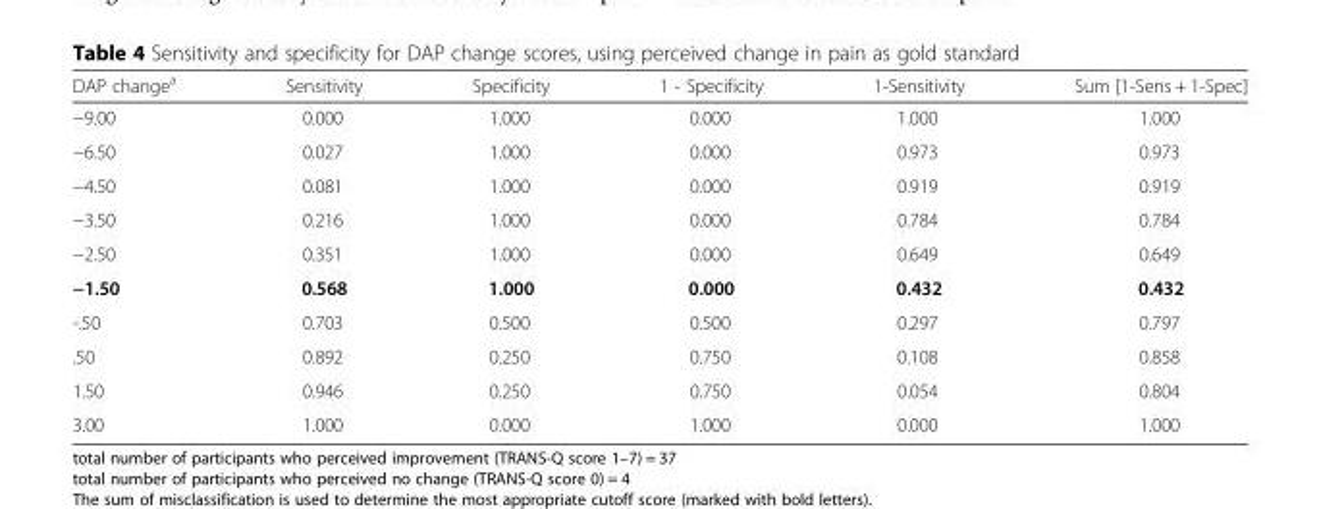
<table><thead><tr><td>DAP change<sup>a</sup></td><td>Sensitivity</td><td>Specificity</td><td>1 - Specificity</td><td>1-Sensitivity</td><td>Sum [1-Sens + 1-Spec]</td></tr></thead><tbody><tr><td>−9.00</td><td>0.000</td><td>1.000</td><td>0.000</td><td>1.000</td><td>1.000</td></tr><tr><td>−6.50</td><td>0.027</td><td>1.000</td><td>0.000</td><td>0.973</td><td>0.973</td></tr><tr><td>−4.50</td><td>0.081</td><td>1.000</td><td>0.000</td><td>0.919</td><td>0.919</td></tr><tr><td>−3.50</td><td>0.216</td><td>1.000</td><td>0.000</td><td>0.784</td><td>0.784</td></tr><tr><td>−2.50</td><td>0.351</td><td>1.000</td><td>0.000</td><td>0.649</td><td>0.649</td></tr><tr><td>−1.50</td><td>0.568</td><td>1.000</td><td>0.000</td><td>0.432</td><td>0.432</td></tr><tr><td>-.50</td><td>0.703</td><td>0.500</td><td>0.500</td><td>0.297</td><td>0.797</td></tr><tr><td>.50</td><td>0.892</td><td>0.250</td><td>0.750</td><td>0.108</td><td>0.858</td></tr><tr><td>1.50</td><td>0.946</td><td>0.250</td><td>0.750</td><td>0.054</td><td>0.804</td></tr><tr><td>3.00</td><td>1.000</td><td>0.000</td><td>1.000</td><td>0.000</td><td>1.000</td></tr></tbody></table>